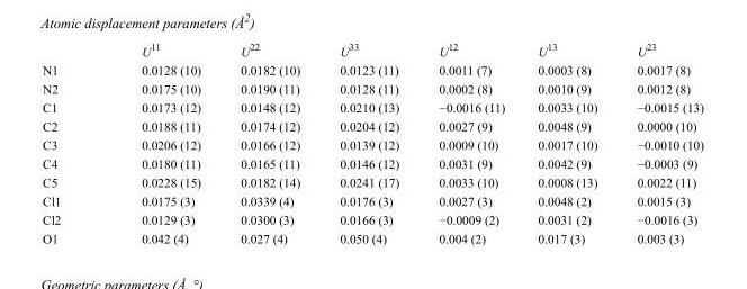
<table><thead><tr><td></td><td>U<sup>11</sup></td><td>U<sup>22</sup></td><td>U<sup>33</sup></td><td>U<sup>12</sup></td><td>U<sup>13</sup></td><td>U<sup>23</sup></td></tr></thead><tbody><tr><td>N1</td><td>0.0128 (10)</td><td>0.0182 (10)</td><td>0.0123 (11)</td><td>0.0011 (7)</td><td>0.0003 (8)</td><td>0.0017 (8)</td></tr><tr><td>N2</td><td>0.0175 (10)</td><td>0.0190 (11)</td><td>0.0128 (11)</td><td>0.0002 (8)</td><td>0.0010 (9)</td><td>0.0012 (8)</td></tr><tr><td>C1</td><td>0.0173 (12)</td><td>0.0148 (12)</td><td>0.0210 (13)</td><td>−0.0016 (11)</td><td>0.0033 (10)</td><td>−0.0015 (13)</td></tr><tr><td>C2</td><td>0.0188 (11)</td><td>0.0174 (12)</td><td>0.0204 (12)</td><td>0.0027 (9)</td><td>0.0048 (9)</td><td>0.0000 (10)</td></tr><tr><td>C3</td><td>0.0206 (12)</td><td>0.0166 (12)</td><td>0.0139 (12)</td><td>0.0009 (10)</td><td>0.0017 (10)</td><td>−0.0010 (10)</td></tr><tr><td>C4</td><td>0.0180 (11)</td><td>0.0165 (11)</td><td>0.0146 (12)</td><td>0.0031 (9)</td><td>0.0042 (9)</td><td>−0.0003 (9)</td></tr><tr><td>C5</td><td>0.0228 (15)</td><td>0.0182 (14)</td><td>0.0241 (17)</td><td>0.0033 (10)</td><td>0.0008 (13)</td><td>0.0022 (11)</td></tr><tr><td>Cl1</td><td>0.0175 (3)</td><td>0.0339 (4)</td><td>0.0176 (3)</td><td>0.0027 (3)</td><td>0.0048 (2)</td><td>0.0015 (3)</td></tr><tr><td>Cl2</td><td>0.0129 (3)</td><td>0.0300 (3)</td><td>0.0166 (3)</td><td>−0.0009 (2)</td><td>0.0031 (2)</td><td>−0.0016 (3)</td></tr><tr><td>O1</td><td>0.042 (4)</td><td>0.027 (4)</td><td>0.050 (4)</td><td>0.004 (2)</td><td>0.017 (3)</td><td>0.003 (3)</td></tr></tbody></table>